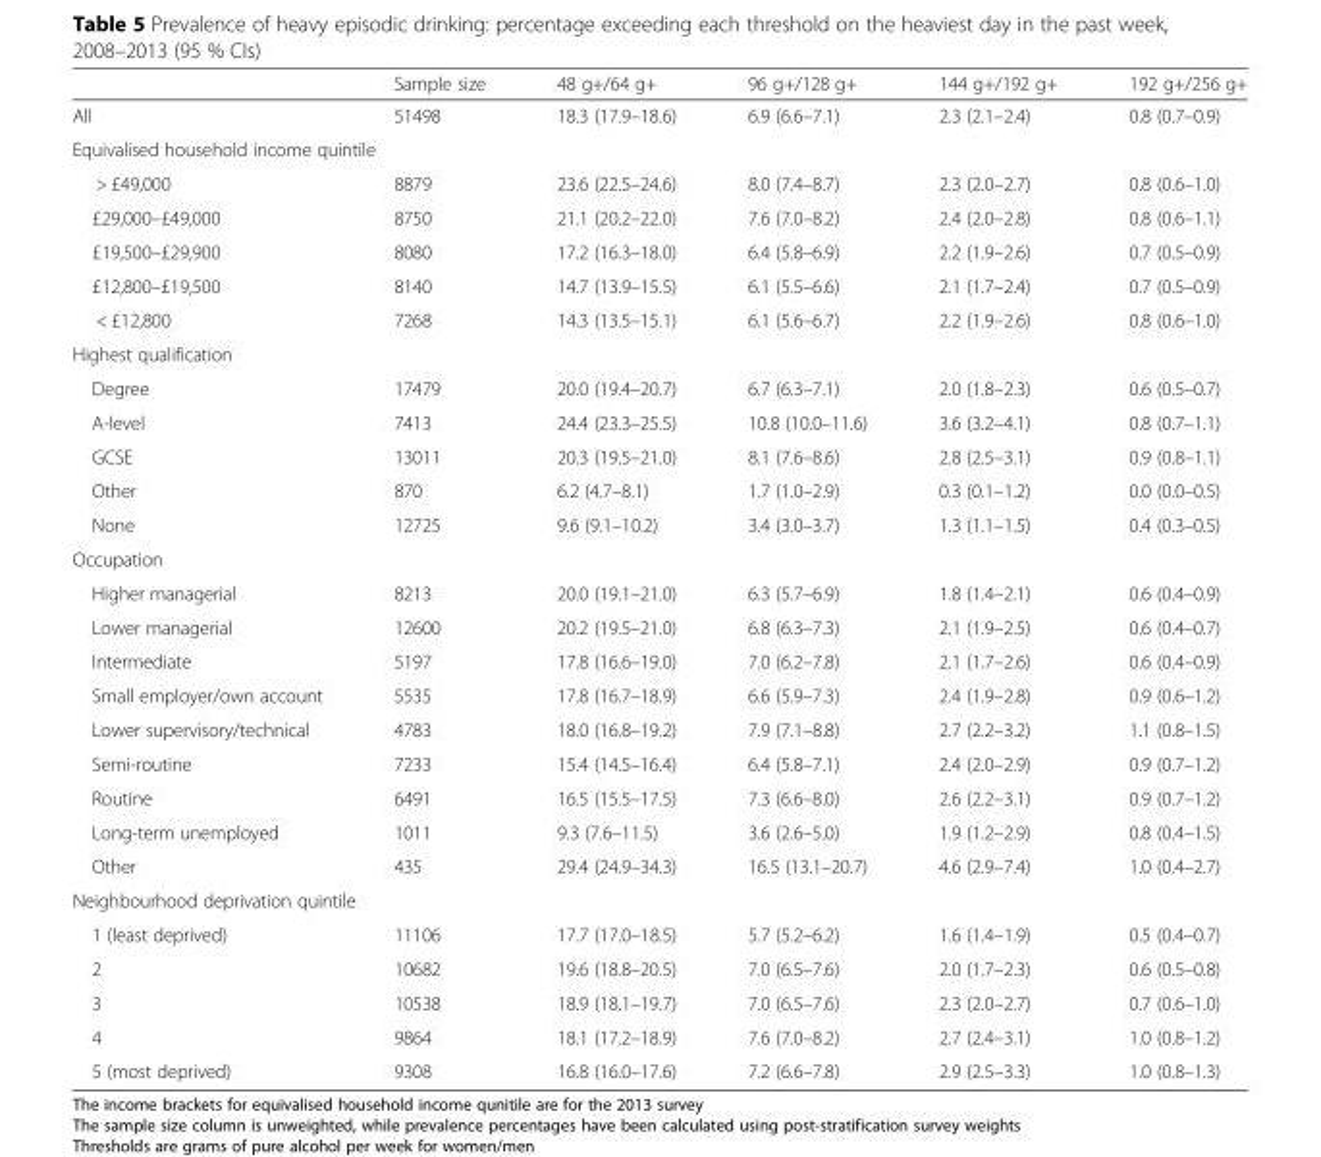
<table><thead><tr><td></td><td>Sample size</td><td>48 g+/64 g+</td><td>96 g+/128 g+</td><td>144 g+/192 g+</td><td>192 g+/256 g+</td></tr></thead><tbody><tr><td>All</td><td>51498</td><td>18.3 (17.9–18.6)</td><td>6.9 (6.6–7.1)</td><td>2.3 (2.1–2.4)</td><td>0.8 (0.7–0.9)</td></tr><tr><td colspan="6">Equivalised household income quintile</td></tr><tr><td>&gt; £49,000</td><td>8879</td><td>23.6 (22.5–24.6)</td><td>8.0 (7.4–8.7)</td><td>2.3 (2.0–2.7)</td><td>0.8 (0.6–1.0)</td></tr><tr><td>£29,000–£49,000</td><td>8750</td><td>21.1 (20.2–22.0)</td><td>7.6 (7.0–8.2)</td><td>2.4 (2.0–2.8)</td><td>0.8 (0.6–1.1)</td></tr><tr><td>£19,500–£29,900</td><td>8080</td><td>17.2 (16.3–18.0)</td><td>6.4 (5.8–6.9)</td><td>2.2 (1.9–2.6)</td><td>0.7 (0.5–0.9)</td></tr><tr><td>£12,800–£19,500</td><td>8140</td><td>14.7 (13.9–15.5)</td><td>6.1 (5.5–6.6)</td><td>2.1 (1.7–2.4)</td><td>0.7 (0.5–0.9)</td></tr><tr><td>&lt; £12,800</td><td>7268</td><td>14.3 (13.5–15.1)</td><td>6.1 (5.6–6.7)</td><td>2.2 (1.9–2.6)</td><td>0.8 (0.6–1.0)</td></tr><tr><td colspan="6">Highest qualification</td></tr><tr><td>Degree</td><td>17479</td><td>20.0 (19.4–20.7)</td><td>6.7 (6.3–7.1)</td><td>2.0 (1.8–2.3)</td><td>0.6 (0.5–0.7)</td></tr><tr><td>A-level</td><td>7413</td><td>24.4 (23.3–25.5)</td><td>10.8 (10.0–11.6)</td><td>3.6 (3.2–4.1)</td><td>0.8 (0.7–1.1)</td></tr><tr><td>GCSE</td><td>13011</td><td>20.3 (19.5–21.0)</td><td>8.1 (7.6–8.6)</td><td>2.8 (2.5–3.1)</td><td>0.9 (0.8–1.1)</td></tr><tr><td>Other</td><td>870</td><td>6.2 (4.7–8.1)</td><td>1.7 (1.0–2.9)</td><td>0.3 (0.1–1.2)</td><td>0.0 (0.0–0.5)</td></tr><tr><td>None</td><td>12725</td><td>9.6 (9.1–10.2)</td><td>3.4 (3.0–3.7)</td><td>1.3 (1.1–1.5)</td><td>0.4 (0.3–0.5)</td></tr><tr><td colspan="6">Occupation</td></tr><tr><td>Higher managerial</td><td>8213</td><td>20.0 (19.1–21.0)</td><td>6.3 (5.7–6.9)</td><td>1.8 (1.4–2.1)</td><td>0.6 (0.4–0.9)</td></tr><tr><td>Lower managerial</td><td>12600</td><td>20.2 (19.5–21.0)</td><td>6.8 (6.3–7.3)</td><td>2.1 (1.9–2.5)</td><td>0.6 (0.4–0.7)</td></tr><tr><td>Intermediate</td><td>5197</td><td>17.8 (16.6–19.0)</td><td>7.0 (6.2–7.8)</td><td>2.1 (1.7–2.6)</td><td>0.6 (0.4–0.9)</td></tr><tr><td>Small employer/own account</td><td>5535</td><td>17.8 (16.7–18.9)</td><td>6.6 (5.9–7.3)</td><td>2.4 (1.9–2.8)</td><td>0.9 (0.6–1.2)</td></tr><tr><td>Lower supervisory/technical</td><td>4783</td><td>18.0 (16.8–19.2)</td><td>7.9 (7.1–8.8)</td><td>2.7 (2.2–3.2)</td><td>1.1 (0.8–1.5)</td></tr><tr><td>Semi-routine</td><td>7233</td><td>15.4 (14.5–16.4)</td><td>6.4 (5.8–7.1)</td><td>2.4 (2.0–2.9)</td><td>0.9 (0.7–1.2)</td></tr><tr><td>Routine</td><td>6491</td><td>16.5 (15.5–17.5)</td><td>7.3 (6.6–8.0)</td><td>2.6 (2.2–3.1)</td><td>0.9 (0.7–1.2)</td></tr><tr><td>Long-term unemployed</td><td>1011</td><td>9.3 (7.6–11.5)</td><td>3.6 (2.6–5.0)</td><td>1.9 (1.2–2.9)</td><td>0.8 (0.4–1.5)</td></tr><tr><td>Other</td><td>435</td><td>29.4 (24.9–34.3)</td><td>16.5 (13.1–20.7)</td><td>4.6 (2.9–7.4)</td><td>1.0 (0.4–2.7)</td></tr><tr><td colspan="6">Neighbourhood deprivation quintile</td></tr><tr><td>1 (least deprived)</td><td>11106</td><td>17.7 (17.0–18.5)</td><td>5.7 (5.2–6.2)</td><td>1.6 (1.4–1.9)</td><td>0.5 (0.4–0.7)</td></tr><tr><td>2</td><td>10682</td><td>19.6 (18.8–20.5)</td><td>7.0 (6.5–7.6)</td><td>2.0 (1.7–2.3)</td><td>0.6 (0.5–0.8)</td></tr><tr><td>3</td><td>10538</td><td>18.9 (18.1–19.7)</td><td>7.0 (6.5–7.6)</td><td>2.3 (2.0–2.7)</td><td>0.7 (0.6–1.0)</td></tr><tr><td>4</td><td>9864</td><td>18.1 (17.2–18.9)</td><td>7.6 (7.0–8.2)</td><td>2.7 (2.4–3.1)</td><td>1.0 (0.8–1.2)</td></tr><tr><td>5 (most deprived)</td><td>9308</td><td>16.8 (16.0–17.6)</td><td>7.2 (6.6–7.8)</td><td>2.9 (2.5–3.3)</td><td>1.0 (0.8–1.3)</td></tr></tbody></table>